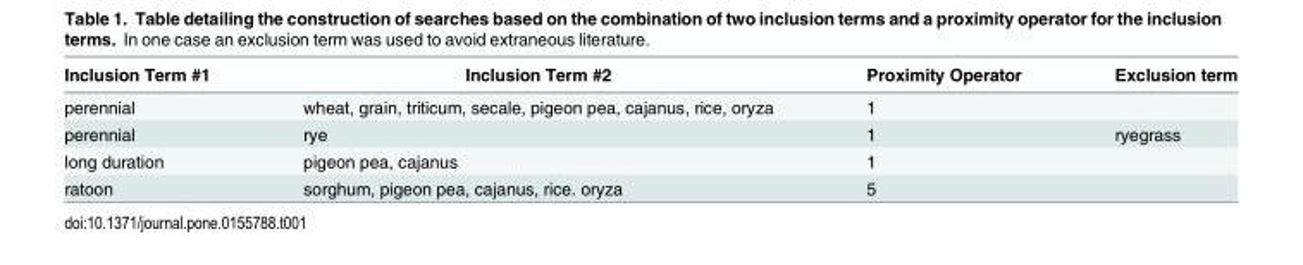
<table><thead><tr><td>Inclusion Term #1</td><td>Inclusion Term #2</td><td>Proximity Operator</td><td>Exclusion term</td></tr></thead><tbody><tr><td>perennial</td><td>wheat, grain, triticum, secale, pigeon pea, cajanus, rice, oryza</td><td>1</td><td></td></tr><tr><td>perennial</td><td>rye</td><td>1</td><td>ryegrass</td></tr><tr><td>long duration</td><td>pigeon pea, cajanus</td><td>1</td><td></td></tr><tr><td>ratoon</td><td>sorghum, pigeon pea, cajanus, rice. oryza</td><td>5</td><td></td></tr></tbody></table>